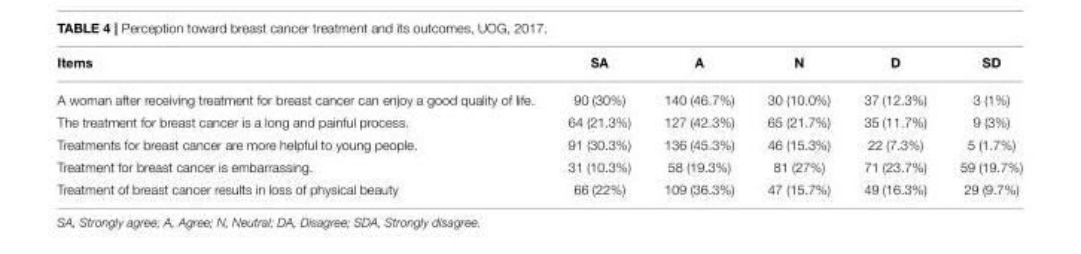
<table><thead><tr><td>Items</td><td>SA</td><td>A</td><td>N</td><td>D</td><td>SD</td></tr></thead><tbody><tr><td>A woman after receiving treatment for breast cancer can enjoy a good quality of life.</td><td>90 (30%)</td><td>140 (46.7%)</td><td>30 (10.0%)</td><td>37 (12.3%)</td><td>3 (1%)</td></tr><tr><td>The treatment for breast cancer is a long and painful process.</td><td>64 (21.3%)</td><td>127 (42.3%)</td><td>65 (21.7%)</td><td>35 (11.7%)</td><td>9 (3%)</td></tr><tr><td>Treatments for breast cancer are more helpful to young people.</td><td>91 (30.3%)</td><td>136 (45.3%)</td><td>46 (15.3%)</td><td>22 (7.3%)</td><td>5 (1.7%)</td></tr><tr><td>Treatment for breast cancer is embarrassing.</td><td>31 (10.3%)</td><td>58 (19.3%)</td><td>81 (27%)</td><td>71 (23.7%)</td><td>59 (19.7%)</td></tr><tr><td>Treatment of breast cancer results in loss of physical beauty</td><td>66 (22%)</td><td>109 (36.3%)</td><td>47 (15.7%)</td><td>49 (16.3%)</td><td>29 (9.7%)</td></tr></tbody></table>